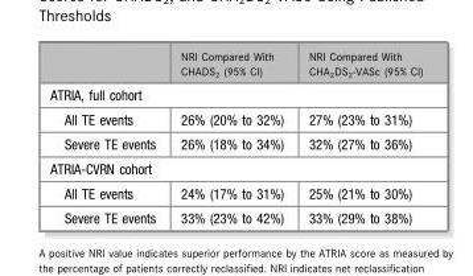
<table><thead><tr><td></td><td>NRI Compared With CHADS<sub>2</sub> (95% CI)</td><td>NRI Compared With CHA<sub>2</sub>DS<sub>2</sub>-VASc (95% CI)</td></tr></thead><tbody><tr><td colspan="3">ATRIA, full cohort</td></tr><tr><td>All TE events</td><td>26% (20% to 32%)</td><td>27% (23% to 31%)</td></tr><tr><td>Severe TE events</td><td>26% (18% to 34%)</td><td>32% (27% to 36%)</td></tr><tr><td colspan="3">ATRIA-CVRN cohort</td></tr><tr><td>All TE events</td><td>24% (17% to 31%)</td><td>25% (21% to 30%)</td></tr><tr><td>Severe TE events</td><td>33% (23% to 42%)</td><td>33% (29% to 38%)</td></tr></tbody></table>